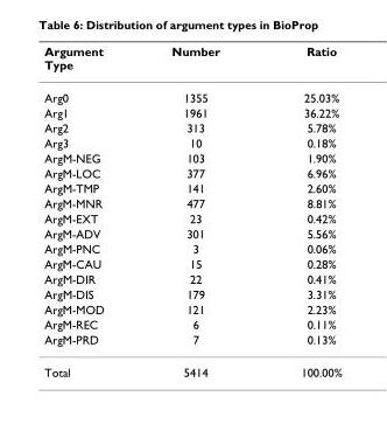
<table><thead><tr><td>Argument Type</td><td>Number</td><td>Ratio</td></tr></thead><tbody><tr><td>Arg0</td><td>1355</td><td>25.03%</td></tr><tr><td>Arg1</td><td>1961</td><td>36.22%</td></tr><tr><td>Arg2</td><td>313</td><td>5.78%</td></tr><tr><td>Arg3</td><td>10</td><td>0.18%</td></tr><tr><td>ArgM-NEG</td><td>103</td><td>1.90%</td></tr><tr><td>ArgM-LOC</td><td>377</td><td>6.96%</td></tr><tr><td>ArgM-TMP</td><td>141</td><td>2.60%</td></tr><tr><td>ArgM-MNR</td><td>477</td><td>8.81%</td></tr><tr><td>ArgM-EXT</td><td>23</td><td>0.42%</td></tr><tr><td>ArgM-ADV</td><td>301</td><td>5.56%</td></tr><tr><td>ArgM-PNC</td><td>3</td><td>0.06%</td></tr><tr><td>ArgM-CAU</td><td>15</td><td>0.28%</td></tr><tr><td>ArgM-DIR</td><td>22</td><td>0.41%</td></tr><tr><td>ArgM-DIS</td><td>179</td><td>3.31%</td></tr><tr><td>ArgM-MOD</td><td>121</td><td>2.23%</td></tr><tr><td>ArgM-REC</td><td>6</td><td>0.11%</td></tr><tr><td>ArgM-PRD</td><td>7</td><td>0.13%</td></tr><tr><td>Total</td><td>5414</td><td>100.00%</td></tr></tbody></table>